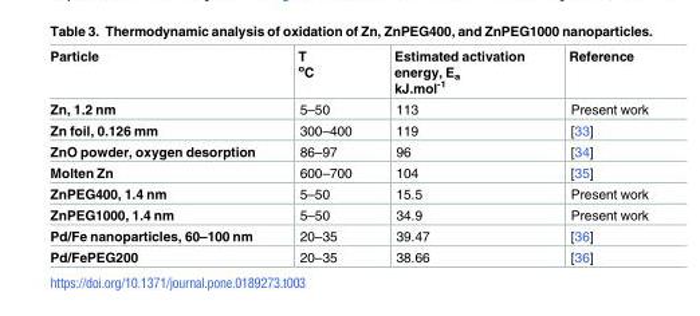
<table><thead><tr><td>Particle</td><td>T <sup>o</sup>C</td><td>Estimated activation energy, E<sub>a</sub> kJ.mol<sup>-1</sup></td><td>Reference</td></tr></thead><tbody><tr><td>Zn, 1.2 nm</td><td>5–50</td><td>113</td><td>Present work</td></tr><tr><td>Zn foil, 0.126 mm</td><td>300–400</td><td>119</td><td>[33]</td></tr><tr><td>ZnO powder, oxygen desorption</td><td>86–97</td><td>96</td><td>[34]</td></tr><tr><td>Molten Zn</td><td>600–700</td><td>104</td><td>[35]</td></tr><tr><td>ZnPEG400, 1.4 nm</td><td>5–50</td><td>15.5</td><td>Present work</td></tr><tr><td>ZnPEG1000, 1.4 nm</td><td>5–50</td><td>34.9</td><td>Present work</td></tr><tr><td>Pd/Fe nanoparticles, 60–100 nm</td><td>20–35</td><td>39.47</td><td>[36]</td></tr><tr><td>Pd/FePEG200</td><td>20–35</td><td>38.66</td><td>[36]</td></tr></tbody></table>